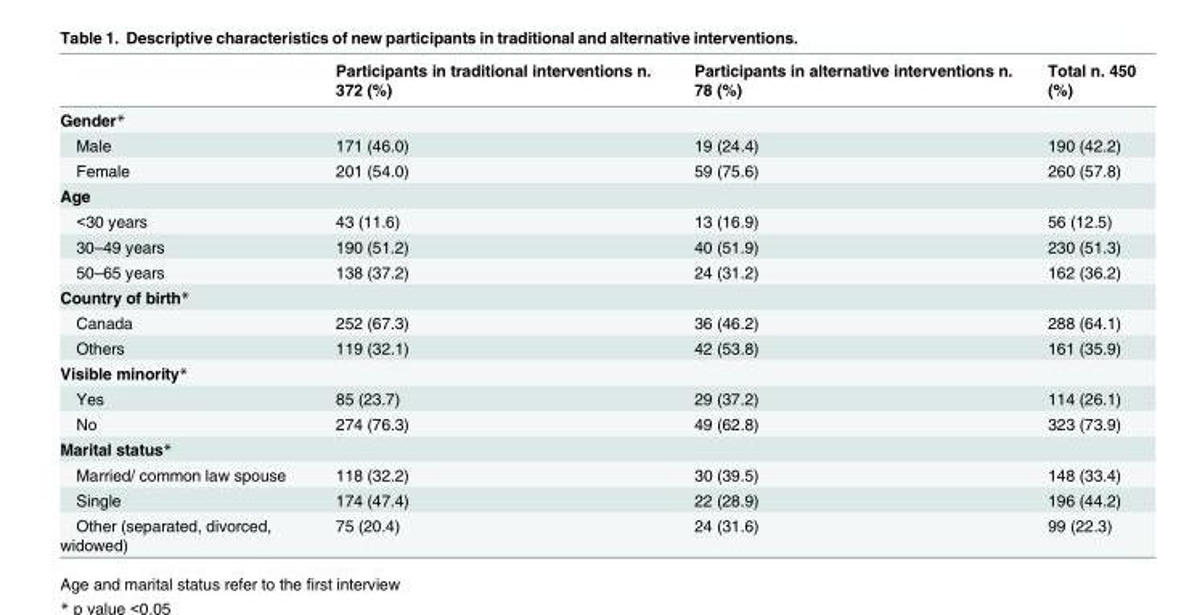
<table><thead><tr><td></td><td>Participants in traditional interventions n. 372 (%)</td><td>Participants in alternative interventions n. 78 (%)</td><td>Total n. 450 (%)</td></tr></thead><tbody><tr><td colspan="4">Gender*</td></tr><tr><td>Male</td><td>171 (46.0)</td><td>19 (24.4)</td><td>190 (42.2)</td></tr><tr><td>Female</td><td>201 (54.0)</td><td>59 (75.6)</td><td>260 (57.8)</td></tr><tr><td colspan="4">Age</td></tr><tr><td>&lt;30 years</td><td>43 (11.6)</td><td>13 (16.9)</td><td>56 (12.5)</td></tr><tr><td>30–49 years</td><td>190 (51.2)</td><td>40 (51.9)</td><td>230 (51.3)</td></tr><tr><td>50–65 years</td><td>138 (37.2)</td><td>24 (31.2)</td><td>162 (36.2)</td></tr><tr><td colspan="4">Country of birth*</td></tr><tr><td>Canada</td><td>252 (67.3)</td><td>36 (46.2)</td><td>288 (64.1)</td></tr><tr><td>Others</td><td>119 (32.1)</td><td>42 (53.8)</td><td>161 (35.9)</td></tr><tr><td colspan="4">Visible minority*</td></tr><tr><td>Yes</td><td>85 (23.7)</td><td>29 (37.2)</td><td>114 (26.1)</td></tr><tr><td>No</td><td>274 (76.3)</td><td>49 (62.8)</td><td>323 (73.9)</td></tr><tr><td colspan="4">Marital status*</td></tr><tr><td>Married/ common law spouse</td><td>118 (32.2)</td><td>30 (39.5)</td><td>148 (33.4)</td></tr><tr><td>Single</td><td>174 (47.4)</td><td>22 (28.9)</td><td>196 (44.2)</td></tr><tr><td>Other (separated, divorced, widowed)</td><td>75 (20.4)</td><td>24 (31.6)</td><td>99 (22.3)</td></tr></tbody></table>